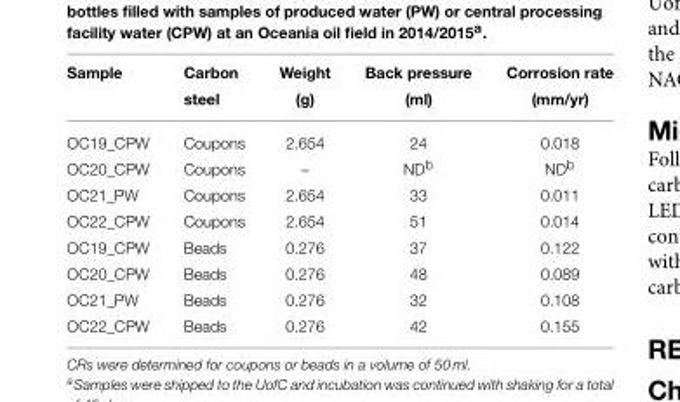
<table><thead><tr><td>Sample</td><td>Carbon steel</td><td>Weight (g)</td><td>Back pressure (ml)</td><td>Corrosion rate (mm/yr)</td></tr></thead><tbody><tr><td>OC19_CPW</td><td>Coupons</td><td>2.654</td><td>24</td><td>0.018</td></tr><tr><td>OC20_CPW</td><td>Coupons</td><td>–</td><td>ND<sup>b</sup></td><td>ND<sup>b</sup></td></tr><tr><td>OC21_PW</td><td>Coupons</td><td>2.654</td><td>33</td><td>0.011</td></tr><tr><td>OC22_CPW</td><td>Coupons</td><td>2.654</td><td>51</td><td>0.014</td></tr><tr><td>OC19_CPW</td><td>Beads</td><td>0.276</td><td>37</td><td>0.122</td></tr><tr><td>OC20_CPW</td><td>Beads</td><td>0.276</td><td>48</td><td>0.089</td></tr><tr><td>OC21_PW</td><td>Beads</td><td>0.276</td><td>32</td><td>0.108</td></tr><tr><td>OC22_CPW</td><td>Beads</td><td>0.276</td><td>42</td><td>0.155</td></tr></tbody></table>